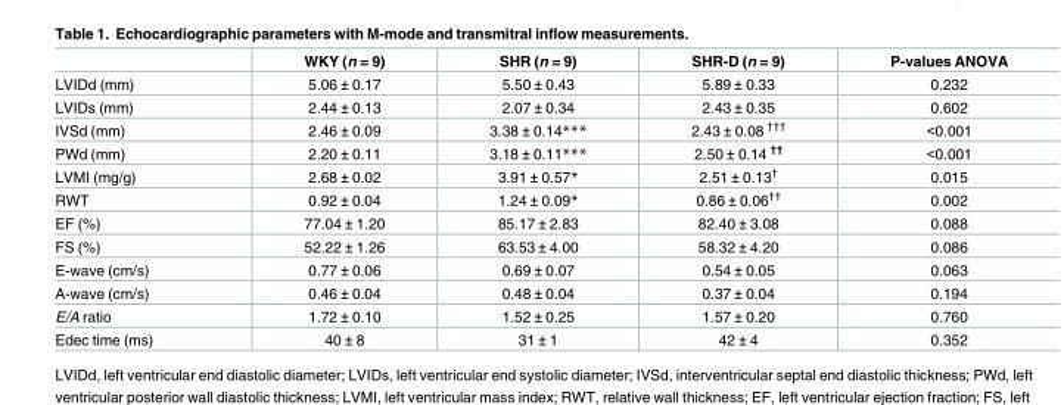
<table><thead><tr><td></td><td>WKY (n = 9)</td><td>SHR (n = 9)</td><td>SHR-D (n = 9)</td><td>P-values ANOVA</td></tr></thead><tbody><tr><td>LVIDd (mm)</td><td>5.06 ± 0.17</td><td>5.50 ± 0.43</td><td>5.89 ± 0.33</td><td>0.232</td></tr><tr><td>LVIDs (mm)</td><td>2.44 ± 0.13</td><td>2.07 ± 0.34</td><td>2.43 ± 0.35</td><td>0.602</td></tr><tr><td>IVSd (mm)</td><td>2.46 ± 0.09</td><td>3.38 ± 0.14***</td><td>2.43 ± 0.08 <sup>†††</sup></td><td>&lt;0.001</td></tr><tr><td>PWd (mm)</td><td>2.20 ± 0.11</td><td>3.18 ± 0.11***</td><td>2.50 ± 0.14 <sup>††</sup></td><td>&lt;0.001</td></tr><tr><td>LVMI (mg/g)</td><td>2.68 ± 0.02</td><td>3.91 ± 0.57*</td><td>2.51 ± 0.13<sup>†</sup></td><td>0.015</td></tr><tr><td>RWT</td><td>0.92 ± 0.04</td><td>1.24 ± 0.09*</td><td>0.86 ± 0.06<sup>††</sup></td><td>0.002</td></tr><tr><td>EF (%)</td><td>77.04 ± 1.20</td><td>85.17 ± 2.83</td><td>82.40 ± 3.08</td><td>0.088</td></tr><tr><td>FS (%)</td><td>52.22 ± 1.26</td><td>63.53 ± 4.00</td><td>58.32 ± 4.20</td><td>0.086</td></tr><tr><td>E-wave (cm/s)</td><td>0.77 ± 0.06</td><td>0.69 ± 0.07</td><td>0.54 ± 0.05</td><td>0.063</td></tr><tr><td>A-wave (cm/s)</td><td>0.46 ± 0.04</td><td>0.48 ± 0.04</td><td>0.37 ± 0.04</td><td>0.194</td></tr><tr><td>E/A ratio</td><td>1.72 ± 0.10</td><td>1.52 ± 0.25</td><td>1.57 ± 0.20</td><td>0.760</td></tr><tr><td>Edec time (ms)</td><td>40 ± 8</td><td>31 ± 1</td><td>42 ± 4</td><td>0.352</td></tr></tbody></table>